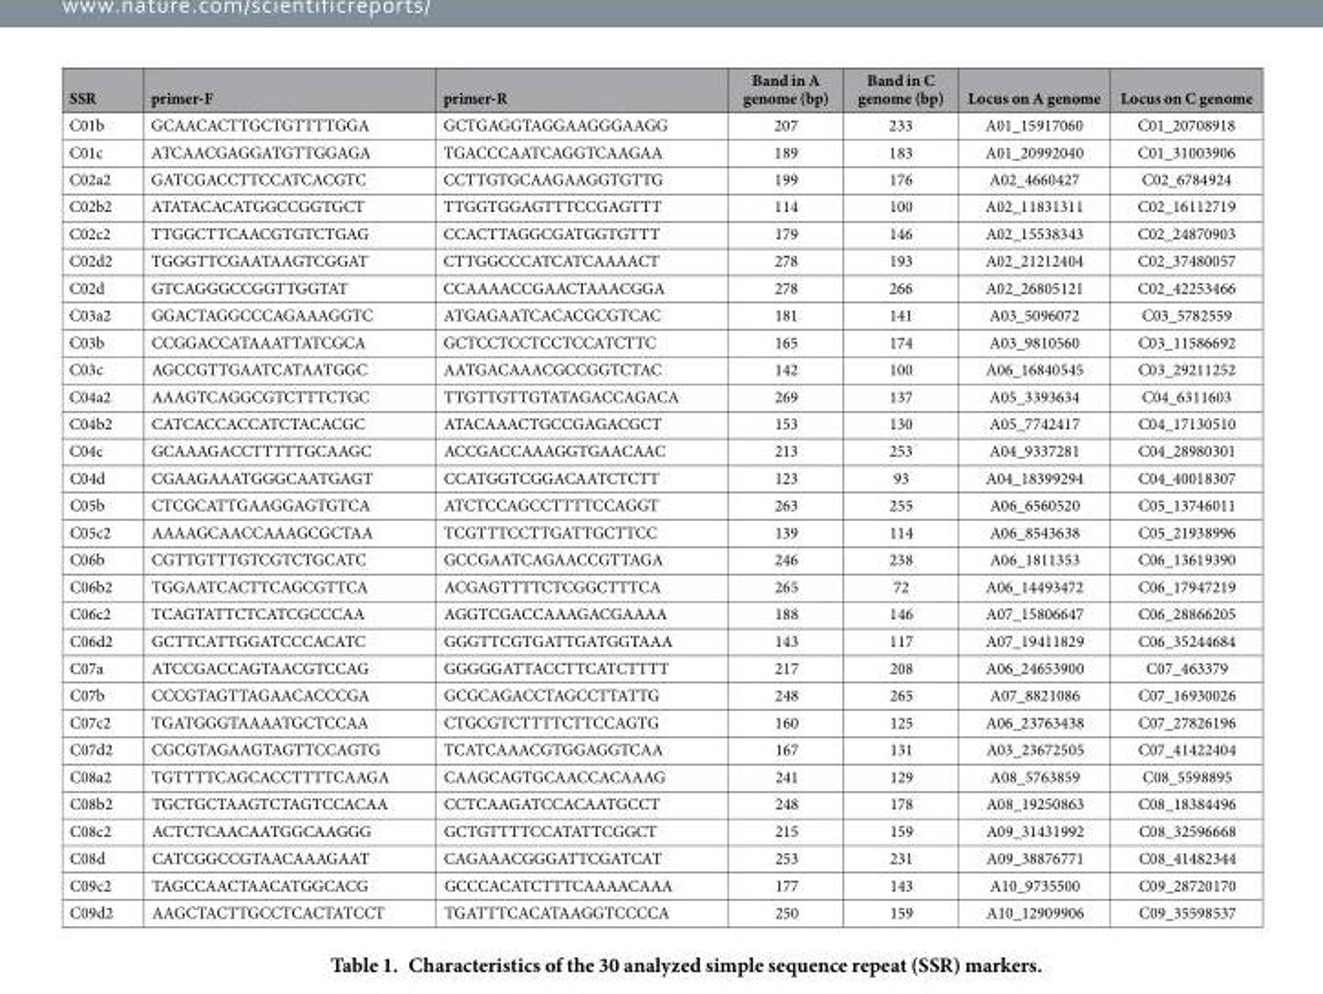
<table><thead><tr><td>SSR</td><td>primer-F</td><td>primer-R</td><td>Band in A genome (bp)</td><td>Band in C genome (bp)</td><td>Locus on A genome</td><td>Locus on C genome</td></tr></thead><tbody><tr><td>C01b</td><td>GCAACACTTGCTGTTTTGGA</td><td>GCTGAGGTAGGAAGGGAAGG</td><td>207</td><td>233</td><td>A01_15917060</td><td>C01_20708918</td></tr><tr><td>C01c</td><td>ATCAACGAGGATGTTGGAGA</td><td>TGACCCAATCAGGTCAAGAA</td><td>189</td><td>183</td><td>A01_20992040</td><td>C01_31003906</td></tr><tr><td>C02a2</td><td>GATCGACCTTCCATCACGTC</td><td>CCTTGTGCAAGAAGGTGTTG</td><td>199</td><td>176</td><td>A02_4660427</td><td>C02_6784924</td></tr><tr><td>C02b2</td><td>ATATACACATGGCCGGTGCT</td><td>TTGGTGGAGTTTCCGAGTTT</td><td>114</td><td>100</td><td>A02_11831311</td><td>C02_16112719</td></tr><tr><td>C02c2</td><td>TTGGCTTCAACGTGTCTGAG</td><td>CCACTTAGGCGATGGTGTTT</td><td>179</td><td>146</td><td>A02_15538343</td><td>C02_24870903</td></tr><tr><td>C02d2</td><td>TGGGTTCGAATAAGTCGGAT</td><td>CTTGGCCCATCATCAAAACT</td><td>278</td><td>193</td><td>A02_21212404</td><td>C02_37480057</td></tr><tr><td>C02d</td><td>GTCAGGGCCGGTTGGTAT</td><td>CCAAAACCGAACTAAACGGA</td><td>278</td><td>266</td><td>A02_26805121</td><td>C02_42253466</td></tr><tr><td>C03a2</td><td>GGACTAGGCCCAGAAAGGTC</td><td>ATGAGAATCACACGCGTCAC</td><td>181</td><td>141</td><td>A03_5096072</td><td>C03_5782559</td></tr><tr><td>C03b</td><td>CCGGACCATAAATTATCGCA</td><td>GCTCCTCCTCCTCCATCTTC</td><td>165</td><td>174</td><td>A03_9810560</td><td>C03_11586692</td></tr><tr><td>C03c</td><td>AGCCGTTGAATCATAATGGC</td><td>AATGACAAACGCCGGTCTAC</td><td>142</td><td>100</td><td>A06_16840545</td><td>C03_29211252</td></tr><tr><td>C04a2</td><td>AAAGTCAGGCGTCTTTCTGC</td><td>TTGTTGTTGTATAGACCAGACA</td><td>269</td><td>137</td><td>A05_3393634</td><td>C04_6311603</td></tr><tr><td>C04b2</td><td>CATCACCACCATCTACACGC</td><td>ATACAAACTGCCGAGACGCT</td><td>153</td><td>130</td><td>A05_7742417</td><td>C04_17130510</td></tr><tr><td>C04c</td><td>GCAAAGACCTTTTTGCAAGC</td><td>ACCGACCAAAGGTGAACAAC</td><td>213</td><td>253</td><td>A04_9337281</td><td>C04_28980301</td></tr><tr><td>C04d</td><td>CGAAGAAATGGGCAATGAGT</td><td>CCATGGTCGGACAATCTCTT</td><td>123</td><td>93</td><td>A04_18399294</td><td>C04_40018307</td></tr><tr><td>C05b</td><td>CTCGCATTGAAGGAGTGTCA</td><td>ATCTCCAGCCTTTTCCAGGT</td><td>263</td><td>255</td><td>A06_6560520</td><td>C05_13746011</td></tr><tr><td>C05c2</td><td>AAAAGCAACCAAAGCGCTAA</td><td>TCGTTTCCTTGATTGCTTCC</td><td>139</td><td>114</td><td>A06_8543638</td><td>C05_21938996</td></tr><tr><td>C06b</td><td>CGTTGTTTGTCGTCTGCATC</td><td>GCCGAATCAGAACCGTTAGA</td><td>246</td><td>238</td><td>A06_1811353</td><td>C06_13619390</td></tr><tr><td>C06b2</td><td>TGGAATCACTTCAGCGTTCA</td><td>ACGAGTTTTCTCGGCTTTCA</td><td>265</td><td>72</td><td>A06_14493472</td><td>C06_17947219</td></tr><tr><td>C06c2</td><td>TCAGTATTCTCATCGCCCAA</td><td>AGGTCGACCAAAGACGAAAA</td><td>188</td><td>146</td><td>A07_15806647</td><td>C06_28866205</td></tr><tr><td>C06d2</td><td>GCTTCATTGGATCCCACATC</td><td>GGGTTCGTGATTGATGGTAAA</td><td>143</td><td>117</td><td>A07_19411829</td><td>C06_35244684</td></tr><tr><td>C07a</td><td>ATCCGACCAGTAACGTCCAG</td><td>GGGGGATTACCTTCATCTTTT</td><td>217</td><td>208</td><td>A06_24653900</td><td>C07_463379</td></tr><tr><td>C07b</td><td>CCCGTAGTTAGAACACCCGA</td><td>GCGCAGACCTAGCCTTATTG</td><td>248</td><td>265</td><td>A07_8821086</td><td>C07_16930026</td></tr><tr><td>C07c2</td><td>TGATGGGTAAAATGCTCCAA</td><td>CTGCGTCTTTTCTTCCAGTG</td><td>160</td><td>125</td><td>A06_23763438</td><td>C07_27826196</td></tr><tr><td>C07d2</td><td>CGCGTAGAAGTAGTTCCAGTG</td><td>TCATCAAACGTGGAGGTCAA</td><td>167</td><td>131</td><td>A03_23672505</td><td>C07_41422404</td></tr><tr><td>C08a2</td><td>TGTTTTCAGCACCTTTTCAAGA</td><td>CAAGCAGTGCAACCACAAAG</td><td>241</td><td>129</td><td>A08_5763859</td><td>C08_5598895</td></tr><tr><td>C08b2</td><td>TGCTGCTAAGTCTAGTCCACAA</td><td>CCTCAAGATCCACAATGCCT</td><td>248</td><td>178</td><td>A08_19250863</td><td>C08_18384496</td></tr><tr><td>C08c2</td><td>ACTCTCAACAATGGCAAGGG</td><td>GCTGTTTTCCATATTCGGCT</td><td>215</td><td>159</td><td>A09_31431992</td><td>C08_32596668</td></tr><tr><td>C08d</td><td>CATCGGCCGTAACAAAGAAT</td><td>CAGAAACGGGATTCGATCAT</td><td>253</td><td>231</td><td>A09_38876771</td><td>C08_41482344</td></tr><tr><td>C09c2</td><td>TAGCCAACTAACATGGCACG</td><td>GCCCACATCTTTCAAAACAAA</td><td>177</td><td>143</td><td>A10_9735500</td><td>C09_28720170</td></tr><tr><td>C09d2</td><td>AAGCTACTTGCCTCACTATCCT</td><td>TGATTTCACATAAGGTCCCCA</td><td>250</td><td>159</td><td>A10_12909906</td><td>C09_35598537</td></tr></tbody></table>